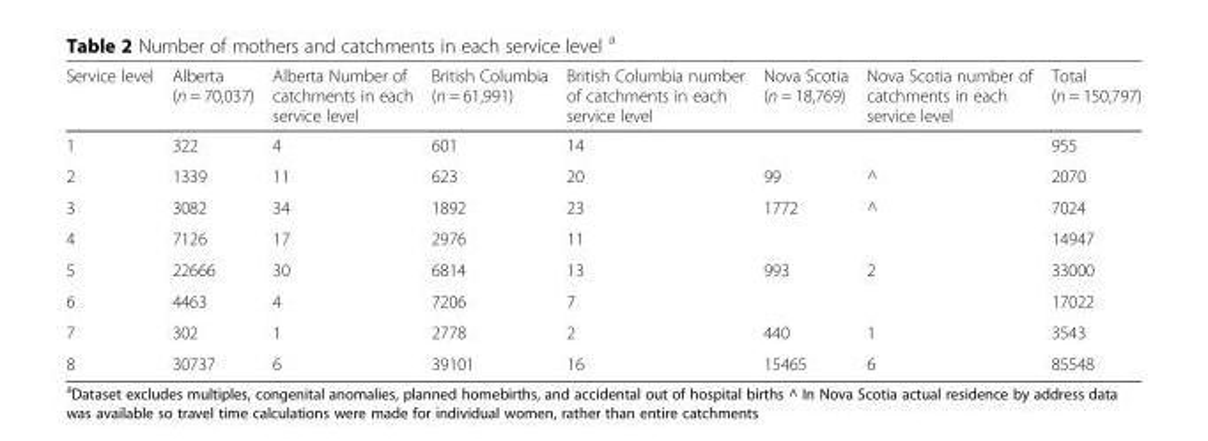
<table><thead><tr><td>Service level</td><td>Alberta (n = 70,037)</td><td>Alberta Number of catchments in each service level</td><td>British Columbia (n = 61,991)</td><td>British Columbia number of catchments in each service level</td><td>Nova Scotia (n = 18,769)</td><td>Nova Scotia number of catchments in each service level</td><td>Total (n = 150,797)</td></tr></thead><tbody><tr><td>1</td><td>322</td><td>4</td><td>601</td><td>14</td><td colspan="2"></td><td>955</td></tr><tr><td>2</td><td>1339</td><td>11</td><td>623</td><td>20</td><td>99</td><td>^</td><td>2070</td></tr><tr><td>3</td><td>3082</td><td>34</td><td>1892</td><td>23</td><td>1772</td><td>^</td><td>7024</td></tr><tr><td>4</td><td>7126</td><td>17</td><td>2976</td><td>11</td><td colspan="2"></td><td>14947</td></tr><tr><td>5</td><td>22666</td><td>30</td><td>6814</td><td>13</td><td>993</td><td>2</td><td>33000</td></tr><tr><td>6</td><td>4463</td><td>4</td><td>7206</td><td>7</td><td colspan="2"></td><td>17022</td></tr><tr><td>7</td><td>302</td><td>1</td><td>2778</td><td>2</td><td>440</td><td>1</td><td>3543</td></tr><tr><td>8</td><td>30737</td><td>6</td><td>39101</td><td>16</td><td>15465</td><td>6</td><td>85548</td></tr></tbody></table>